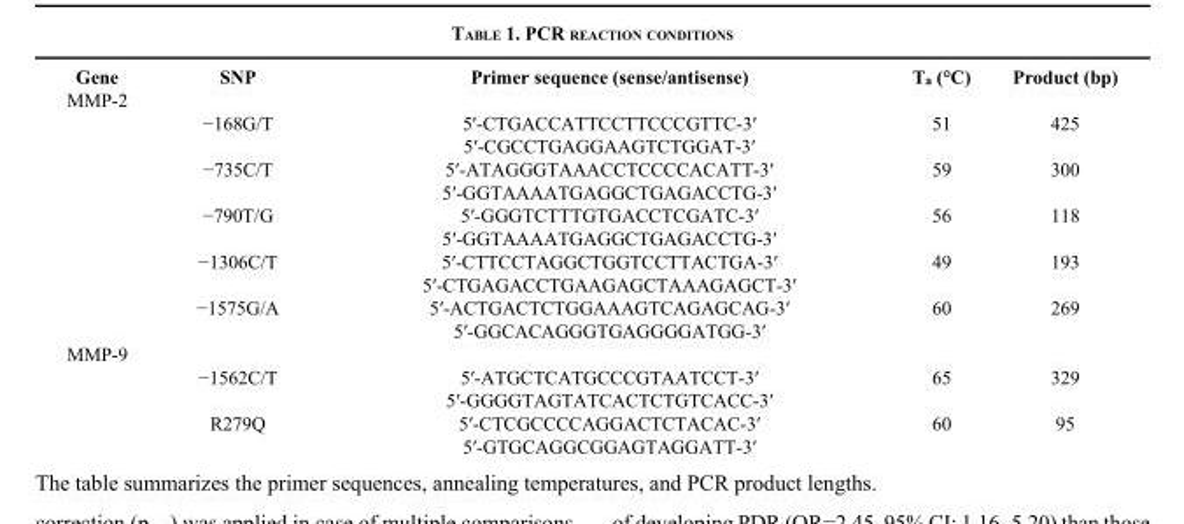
<table><tbody><tr><td>Gene</td><td>SNP</td><td>Primer sequence (sense/antisense)</td><td>T<sub>a</sub> (°C)</td><td>Product (bp)</td></tr><tr><td colspan="5">MMP-2</td></tr><tr><td></td><td>−168G/T</td><td>5′-CTGACCATTCCTTCCCGTTC-3′</td><td rowspan="2">51</td><td rowspan="2">425</td></tr><tr><td></td><td></td><td>5′-CGCCTGAGGAAGTCTGGAT-3′</td></tr><tr><td></td><td>−735C/T</td><td>5′-ATAGGGTAAACCTCCCCACATT-3′</td><td rowspan="2">59</td><td rowspan="2">300</td></tr><tr><td></td><td></td><td>5′-GGTAAAATGAGGCTGAGACCTG-3′</td></tr><tr><td></td><td>−790T/G</td><td>5′-GGGTCTTTGTGACCTCGATC-3′</td><td rowspan="2">56</td><td rowspan="2">118</td></tr><tr><td></td><td></td><td>5′-GGTAAAATGAGGCTGAGACCTG-3′</td></tr><tr><td></td><td>−1306C/T</td><td>5′-CTTCCTAGGCTGGTCCTTACTGA-3′</td><td rowspan="2">49</td><td rowspan="2">193</td></tr><tr><td></td><td></td><td>5′-CTGAGACCTGAAGAGCTAAAGAGCT-3′</td></tr><tr><td></td><td>−1575G/A</td><td>5′-ACTGACTCTGGAAAGTCAGAGCAG-3′</td><td rowspan="2">60</td><td rowspan="2">269</td></tr><tr><td></td><td></td><td>5′-GGCACAGGGTGAGGGGATGG-3′</td></tr><tr><td colspan="5">MMP-9</td></tr><tr><td></td><td>−1562C/T</td><td>5′-ATGCTCATGCCCGTAATCCT-3′</td><td rowspan="2">65</td><td rowspan="2">329</td></tr><tr><td></td><td></td><td>5′-GGGGTAGTATCACTCTGTCACC-3′</td></tr><tr><td></td><td>R279Q</td><td>5′-CTCGCCCCAGGACTCTACAC-3′</td><td rowspan="2">60</td><td rowspan="2">95</td></tr><tr><td></td><td></td><td>5′-GTGCAGGCGGAGTAGGATT-3′</td></tr></tbody></table>